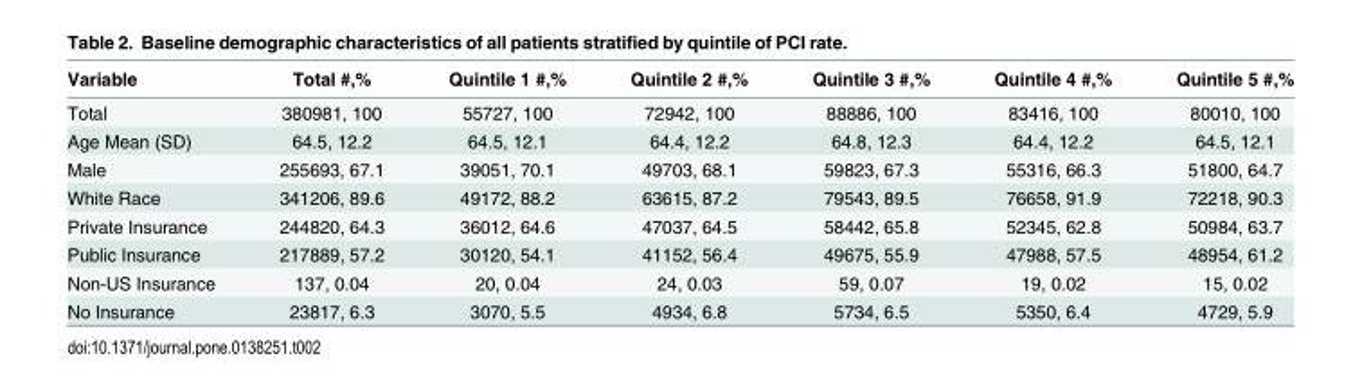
<table><thead><tr><td>Variable</td><td>Total #,%</td><td>Quintile 1 #,%</td><td>Quintile 2 #,%</td><td>Quintile 3 #,%</td><td>Quintile 4 #,%</td><td>Quintile 5 #,%</td></tr></thead><tbody><tr><td>Total</td><td>380981, 100</td><td>55727, 100</td><td>72942, 100</td><td>88886, 100</td><td>83416, 100</td><td>80010, 100</td></tr><tr><td>Age Mean (SD)</td><td>64.5, 12.2</td><td>64.5, 12.1</td><td>64.4, 12.2</td><td>64.8, 12.3</td><td>64.4, 12.2</td><td>64.5, 12.1</td></tr><tr><td>Male</td><td>255693, 67.1</td><td>39051, 70.1</td><td>49703, 68.1</td><td>59823, 67.3</td><td>55316, 66.3</td><td>51800, 64.7</td></tr><tr><td>White Race</td><td>341206, 89.6</td><td>49172, 88.2</td><td>63615, 87.2</td><td>79543, 89.5</td><td>76658, 91.9</td><td>72218, 90.3</td></tr><tr><td>Private Insurance</td><td>244820, 64.3</td><td>36012, 64.6</td><td>47037, 64.5</td><td>58442, 65.8</td><td>52345, 62.8</td><td>50984, 63.7</td></tr><tr><td>Public Insurance</td><td>217889, 57.2</td><td>30120, 54.1</td><td>41152, 56.4</td><td>49675, 55.9</td><td>47988, 57.5</td><td>48954, 61.2</td></tr><tr><td>Non-US Insurance</td><td>137, 0.04</td><td>20, 0.04</td><td>24, 0.03</td><td>59, 0.07</td><td>19, 0.02</td><td>15, 0.02</td></tr><tr><td>No Insurance</td><td>23817, 6.3</td><td>3070, 5.5</td><td>4934, 6.8</td><td>5734, 6.5</td><td>5350, 6.4</td><td>4729, 5.9</td></tr></tbody></table>